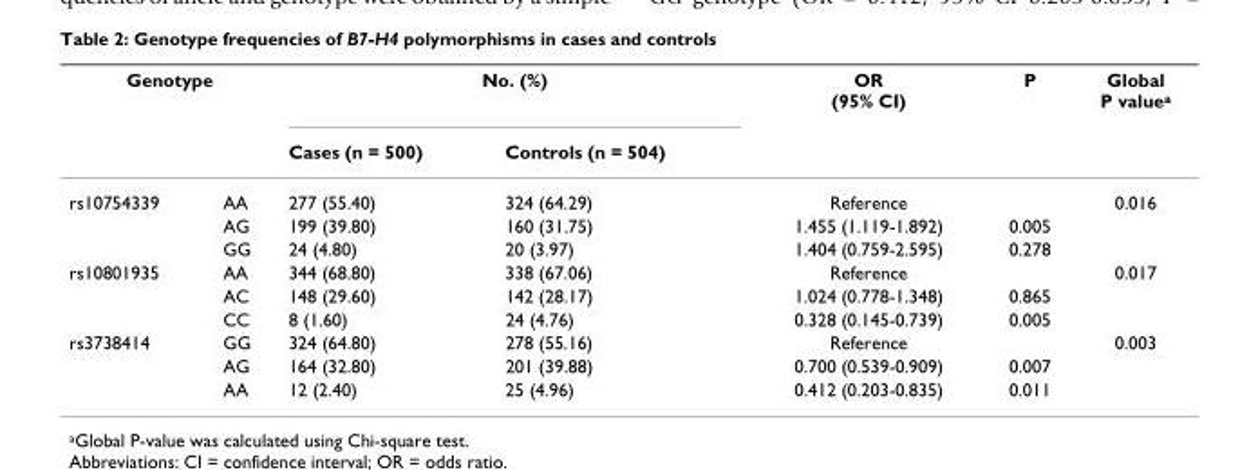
<table><thead><tr><td colspan="2">Genotype</td><td colspan="2">No. (%)</td><td rowspan="2">OR (95% CI)</td><td rowspan="2">P</td><td rowspan="2">Global P value<sup>a</sup></td></tr><tr><td></td><td></td><td>Cases (n = 500)</td><td>Controls (n = 504)</td></tr></thead><tbody><tr><td rowspan="3">rs10754339</td><td>AA</td><td>277 (55.40)</td><td>324 (64.29)</td><td>Reference</td><td></td><td>0.016</td></tr><tr><td>AG</td><td>199 (39.80)</td><td>160 (31.75)</td><td>1.455 (1.119-1.892)</td><td>0.005</td><td></td></tr><tr><td>GG</td><td>24 (4.80)</td><td>20 (3.97)</td><td>1.404 (0.759-2.595)</td><td>0.278</td><td></td></tr><tr><td rowspan="3">rs10801935</td><td>AA</td><td>344 (68.80)</td><td>338 (67.06)</td><td>Reference</td><td></td><td>0.017</td></tr><tr><td>AC</td><td>148 (29.60)</td><td>142 (28.17)</td><td>1.024 (0.778-1.348)</td><td>0.865</td><td></td></tr><tr><td>CC</td><td>8 (1.60)</td><td>24 (4.76)</td><td>0.328 (0.145-0.739)</td><td>0.005</td><td></td></tr><tr><td rowspan="3">rs3738414</td><td>GG</td><td>324 (64.80)</td><td>278 (55.16)</td><td>Reference</td><td></td><td>0.003</td></tr><tr><td>AG</td><td>164 (32.80)</td><td>201 (39.88)</td><td>0.700 (0.539-0.909)</td><td>0.007</td><td></td></tr><tr><td>AA</td><td>12 (2.40)</td><td>25 (4.96)</td><td>0.412 (0.203-0.835)</td><td>0.011</td><td></td></tr></tbody></table>